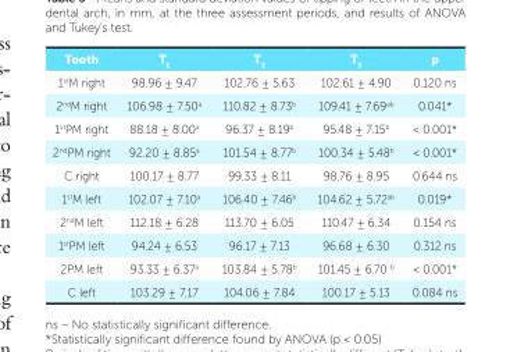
<table><thead><tr><td>Tooth</td><td>T<sub>1</sub></td><td>T<sub>2</sub></td><td>T<sub>3</sub></td><td>p</td></tr></thead><tbody><tr><td>1<sup>st</sup>M right</td><td>98.96 ± 9.47</td><td>102.76 ± 5.63</td><td>102.61 ± 4.90</td><td>0.120 ns</td></tr><tr><td>2<sup>nd</sup>M right</td><td>106.98 ± 7.50<sup>a</sup></td><td>110.82 ± 8.73<sup>b</sup></td><td>109.41 ± 7.69<sup>ab</sup></td><td>0.041*</td></tr><tr><td>1<sup>st</sup>PM right</td><td>88.18 ± 8.00<sup>a</sup></td><td>96.37 ± 8.19<sup>b</sup></td><td>95.48 ± 7.15<sup>b</sup></td><td>&lt; 0.001*</td></tr><tr><td>2<sup>nd</sup>PM right</td><td>92.20 ± 8.85<sup>a</sup></td><td>101.54 ± 8.77<sup>b</sup></td><td>100.34 ± 5.48<sup>b</sup></td><td>&lt; 0.001*</td></tr><tr><td>C right</td><td>100.17 ± 8.77</td><td>99.33 ± 8.11</td><td>98.76 ± 8.95</td><td>0.644 ns</td></tr><tr><td>1<sup>st</sup>M left</td><td>102.07 ± 7.10<sup>a</sup></td><td>106.40 ± 7.46<sup>b</sup></td><td>104.62 ± 5.72<sup>ab</sup></td><td>0.019*</td></tr><tr><td>2<sup>nd</sup>M left</td><td>112.18 ± 6.28</td><td>113.70 ± 6.05</td><td>110.47 ± 6.34</td><td>0.154 ns</td></tr><tr><td>1<sup>st</sup>PM left</td><td>94.24 ± 6.53</td><td>96.17 ± 7.13</td><td>96.68 ± 6.30</td><td>0.312 ns</td></tr><tr><td>2PM left</td><td>93.33 ± 6.37<sup>a</sup></td><td>103.84 ± 5.78<sup>b</sup></td><td>101.45 ± 6.70 <sup>b</sup></td><td>&lt; 0.001*</td></tr><tr><td>C left</td><td>103.29 ± 7.17</td><td>104.06 ± 7.84</td><td>100.17 ± 5.13</td><td>0.084 ns</td></tr></tbody></table>